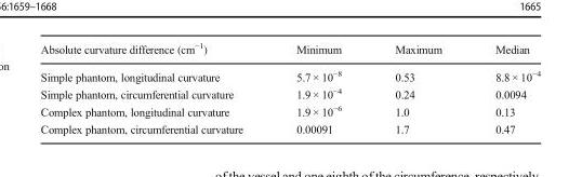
<table><thead><tr><td>Absolute curvature difference (cm<sup>−1</sup>)</td><td>Minimum</td><td>Maximum</td><td>Median</td></tr></thead><tbody><tr><td>Simple phantom, longitudinal curvature</td><td>5.7 × 10<sup>−8</sup></td><td>0.53</td><td>8.8 × 10<sup>−4</sup></td></tr><tr><td>Simple phantom, circumferential curvature</td><td>1.9 × 10<sup>−4</sup></td><td>0.24</td><td>0.0094</td></tr><tr><td>Complex phantom, longitudinal curvature</td><td>1.9 × 10<sup>−6</sup></td><td>1.0</td><td>0.13</td></tr><tr><td>Complex phantom, circumferential curvature</td><td>0.00091</td><td>1.7</td><td>0.47</td></tr></tbody></table>